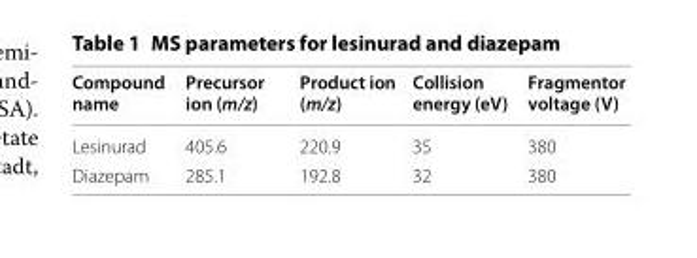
<table><thead><tr><td>Compound name</td><td>Precursor ion (m/z)</td><td>Product ion (m/z)</td><td>Collision energy (eV)</td><td>Fragmentor voltage (V)</td></tr></thead><tbody><tr><td>Lesinurad</td><td>405.6</td><td>220.9</td><td>35</td><td>380</td></tr><tr><td>Diazepam</td><td>285.1</td><td>192.8</td><td>32</td><td>380</td></tr></tbody></table>